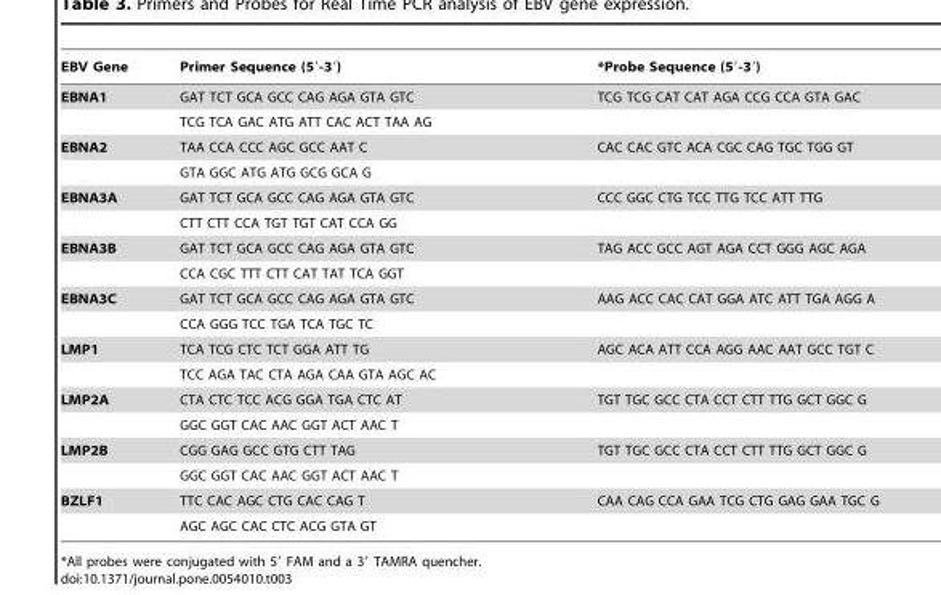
<table><thead><tr><td>EBV Gene</td><td>Primer Sequence (5′-3′)</td><td>*Probe Sequence (5′-3′)</td></tr></thead><tbody><tr><td rowspan="2">EBNA1</td><td>GAT TCT GCA GCC CAG AGA GTA GTC</td><td>TCG TCG CAT CAT AGA CCG CCA GTA GAC</td></tr><tr><td>TCG TCA GAC ATG ATT CAC ACT TAA AG</td><td></td></tr><tr><td rowspan="2">EBNA2</td><td>TAA CCA CCC AGC GCC AAT C</td><td>CAC CAC GTC ACA CGC CAG TGC TGG GT</td></tr><tr><td>GTA GGC ATG ATG GCG GCA G</td><td></td></tr><tr><td rowspan="2">EBNA3A</td><td>GAT TCT GCA GCC CAG AGA GTA GTC</td><td>CCC GGC CTG TCC TTG TCC ATT TTG</td></tr><tr><td>CTT CTT CCA TGT TGT CAT CCA GG</td><td></td></tr><tr><td rowspan="2">EBNA3B</td><td>GAT TCT GCA GCC CAG AGA GTA GTC</td><td>TAG ACC GCC AGT AGA CCT GGG AGC AGA</td></tr><tr><td>CCA CGC TTT CTT CAT TAT TCA GGT</td><td></td></tr><tr><td rowspan="2">EBNA3C</td><td>GAT TCT GCA GCC CAG AGA GTA GTC</td><td>AAG ACC CAC CAT GGA ATC ATT TGA AGG A</td></tr><tr><td>CCA GGG TCC TGA TCA TGC TC</td><td></td></tr><tr><td rowspan="2">LMP1</td><td>TCA TCG CTC TCT GGA ATT TG</td><td>AGC ACA ATT CCA AGG AAC AAT GCC TGT C</td></tr><tr><td>TCC AGA TAC CTA AGA CAA GTA AGC AC</td><td></td></tr><tr><td rowspan="2">LMP2A</td><td>CTA CTC TCC ACG GGA TGA CTC AT</td><td>TGT TGC GCC CTA CCT CTT TTG GCT GGC G</td></tr><tr><td>GGC GGT CAC AAC GGT ACT AAC T</td><td></td></tr><tr><td rowspan="2">LMP2B</td><td>CGG GAG GCC GTG CTT TAG</td><td>TGT TGC GCC CTA CCT CTT TTG GCT GGC G</td></tr><tr><td>GGC GGT CAC AAC GGT ACT AAC T</td><td></td></tr><tr><td rowspan="2">BZLF1</td><td>TTC CAC AGC CTG CAC CAG T</td><td>CAA CAG CCA GAA TCG CTG GAG GAA TGC G</td></tr><tr><td>AGC AGC CAC CTC ACG GTA GT</td><td></td></tr></tbody></table>